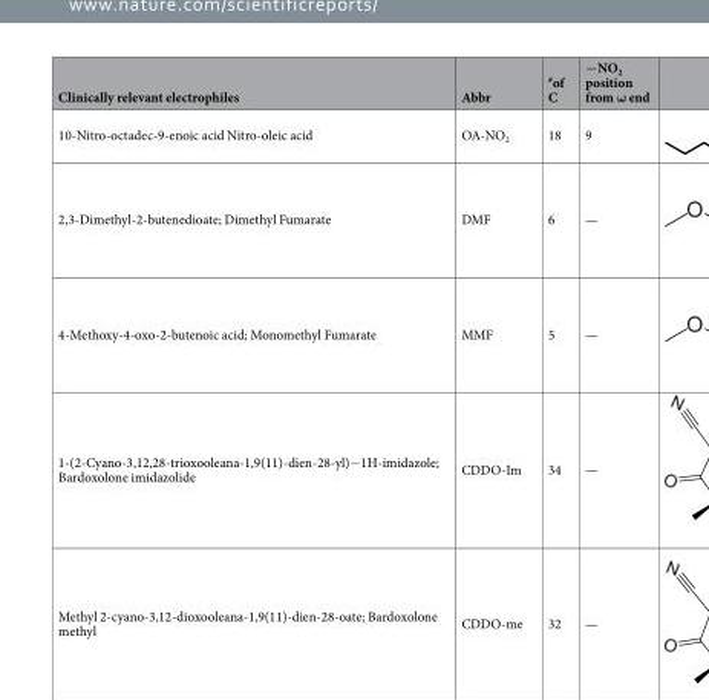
<table><thead><tr><td>Clinically relevant electrophiles</td><td>Abbr</td><td><sup>#</sup>of C</td><td>−NO<sub>2</sub> position from ω end</td></tr></thead><tbody><tr><td>10-Nitro-octadec-9-enoic acid Nitro-oleic acid</td><td>OA-NO<sub>2</sub></td><td>18</td><td>9</td></tr><tr><td>2,3-Dimethyl-2-butenedioate; Dimethyl Fumarate</td><td>DMF</td><td>6</td><td>—</td></tr><tr><td>4-Methoxy-4-oxo-2-butenoic acid; Monomethyl Fumarate</td><td>MMF</td><td>5</td><td>—</td></tr><tr><td>1-(2-Cyano-3,12,28-trioxooleana-1,9(11)-dien-28-yl)−1H-imidazole; Bardoxolone imidazolide</td><td>CDDO-Im</td><td>34</td><td>—</td></tr><tr><td>Methyl 2-cyano-3,12-dioxooleana-1,9(11)-dien-28-oate; Bardoxolone methyl</td><td>CDDO-me</td><td>32</td><td>—</td></tr></tbody></table>